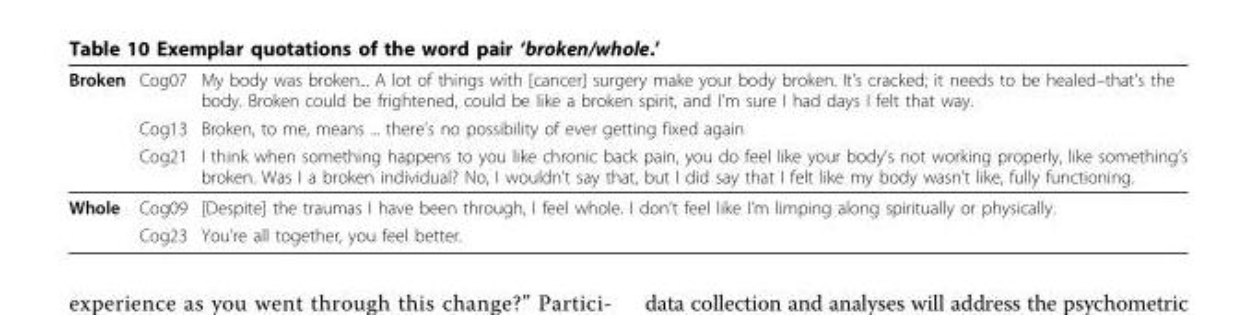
<table><thead><tr><td rowspan="3">Broken</td><td rowspan="3">Cog07 Cog13 Cog21</td><td rowspan="3">My body was broken... A lot of things with [cancer] surgery make your body broken. It’s cracked; it needs to be healed–that’s the body. Broken could be frightened, could be like a broken spirit, and I’m sure I had days I felt that way. Broken, to me, means ... there’s no possibility of ever getting fixed again I think when something happens to you like chronic back pain, you do feel like your body’s not working properly, like something’s broken. Was I a broken individual? No, I wouldn’t say that, but I did say that I felt like my body wasn’t like, fully functioning.</td></tr><tr></tr><tr></tr></thead><tbody><tr><td rowspan="2">Whole</td><td>Cog09</td><td>[Despite] the traumas I have been through, I feel whole. I don’t feel like I’m limping along spiritually or physically.</td></tr><tr><td>Cog23</td><td>You’re all together, you feel better.</td></tr></tbody></table>